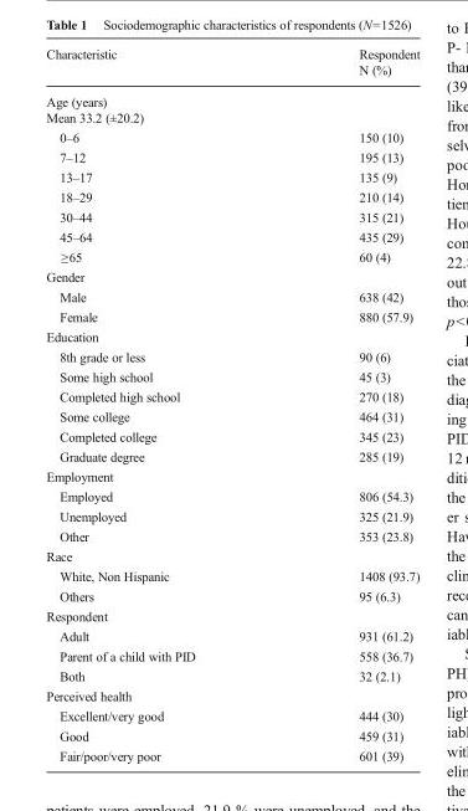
<table><thead><tr><td>Characteristic</td><td>Respondent N (%)</td></tr></thead><tbody><tr><td colspan="2">Age (years) Mean 33.2 (±20.2)</td></tr><tr><td>0–6</td><td>150 (10)</td></tr><tr><td>7–12</td><td>195 (13)</td></tr><tr><td>13–17</td><td>135 (9)</td></tr><tr><td>18–29</td><td>210 (14)</td></tr><tr><td>30–44</td><td>315 (21)</td></tr><tr><td>45–64</td><td>435 (29)</td></tr><tr><td>≥65</td><td>60 (4)</td></tr><tr><td colspan="2">Gender</td></tr><tr><td>Male</td><td>638 (42)</td></tr><tr><td>Female</td><td>880 (57.9)</td></tr><tr><td colspan="2">Education</td></tr><tr><td>8th grade or less</td><td>90 (6)</td></tr><tr><td>Some high school</td><td>45 (3)</td></tr><tr><td>Completed high school</td><td>270 (18)</td></tr><tr><td>Some college</td><td>464 (31)</td></tr><tr><td>Completed college</td><td>345 (23)</td></tr><tr><td>Graduate degree</td><td>285 (19)</td></tr><tr><td colspan="2">Employment</td></tr><tr><td>Employed</td><td>806 (54.3)</td></tr><tr><td>Unemployed</td><td>325 (21.9)</td></tr><tr><td>Other</td><td>353 (23.8)</td></tr><tr><td colspan="2">Race</td></tr><tr><td>White, Non Hispanic</td><td>1408 (93.7)</td></tr><tr><td>Others</td><td>95 (6.3)</td></tr><tr><td colspan="2">Respondent</td></tr><tr><td>Adult</td><td>931 (61.2)</td></tr><tr><td>Parent of a child with PID</td><td>558 (36.7)</td></tr><tr><td>Both</td><td>32 (2.1)</td></tr><tr><td colspan="2">Perceived health</td></tr><tr><td>Excellent/very good</td><td>444 (30)</td></tr><tr><td>Good</td><td>459 (31)</td></tr><tr><td>Fair/poor/very poor</td><td>601 (39)</td></tr></tbody></table>